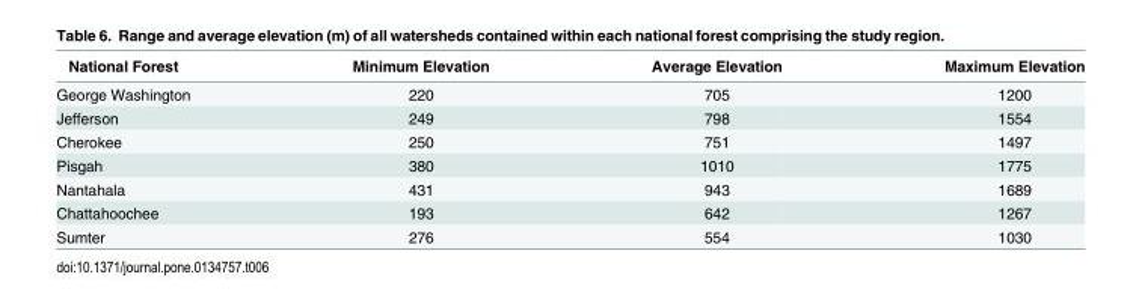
<table><thead><tr><td>National Forest</td><td>Minimum Elevation</td><td>Average Elevation</td><td>Maximum Elevation</td></tr></thead><tbody><tr><td>George Washington</td><td>220</td><td>705</td><td>1200</td></tr><tr><td>Jefferson</td><td>249</td><td>798</td><td>1554</td></tr><tr><td>Cherokee</td><td>250</td><td>751</td><td>1497</td></tr><tr><td>Pisgah</td><td>380</td><td>1010</td><td>1775</td></tr><tr><td>Nantahala</td><td>431</td><td>943</td><td>1689</td></tr><tr><td>Chattahoochee</td><td>193</td><td>642</td><td>1267</td></tr><tr><td>Sumter</td><td>276</td><td>554</td><td>1030</td></tr></tbody></table>